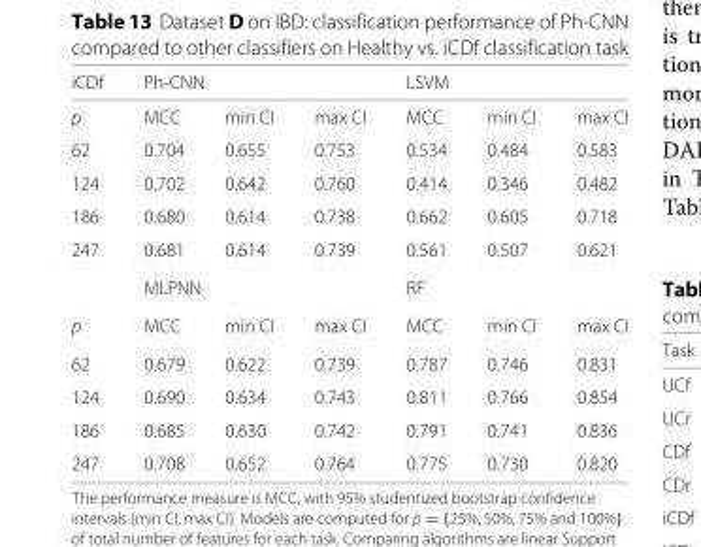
<table><thead><tr><td rowspan="2">iCDf p</td><td colspan="3">Ph-CNN</td><td colspan="3">LSVM</td></tr><tr><td>MCC</td><td>min CI</td><td>max CI</td><td>MCC</td><td>min CI</td><td>max CI</td></tr></thead><tbody><tr><td>62</td><td>0.704</td><td>0.655</td><td>0.753</td><td>0.534</td><td>0.484</td><td>0.583</td></tr><tr><td>124</td><td>0.702</td><td>0.642</td><td>0.760</td><td>0.414</td><td>0.346</td><td>0.482</td></tr><tr><td>186</td><td>0.680</td><td>0.614</td><td>0.738</td><td>0.662</td><td>0.605</td><td>0.718</td></tr><tr><td rowspan="2">247</td><td>0.681</td><td>0.614</td><td>0.739</td><td>0.561</td><td>0.507</td><td>0.621</td></tr><tr><td colspan="3">MLPNN</td><td colspan="3">RF</td></tr><tr><td>p</td><td>MCC</td><td>min CI</td><td>max CI</td><td>MCC</td><td>min CI</td><td>max CI</td></tr><tr><td>62</td><td>0.679</td><td>0.622</td><td>0.739</td><td>0.787</td><td>0.746</td><td>0.831</td></tr><tr><td>124</td><td>0.690</td><td>0.634</td><td>0.743</td><td>0.811</td><td>0.766</td><td>0.854</td></tr><tr><td>186</td><td>0.685</td><td>0.630</td><td>0.742</td><td>0.791</td><td>0.741</td><td>0.836</td></tr><tr><td>247</td><td>0.708</td><td>0.652</td><td>0.764</td><td>0.775</td><td>0.730</td><td>0.820</td></tr></tbody></table>